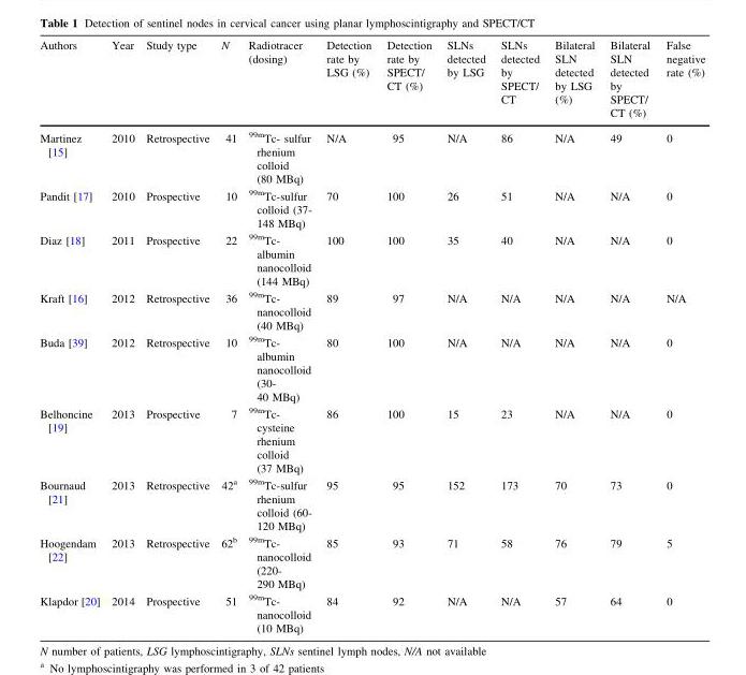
<table><thead><tr><td>Authors</td><td>Year</td><td>Study type</td><td>N</td><td>Radiotracer (dosing)</td><td>Detection rate by LSG (%)</td><td>Detection rate by SPECT/ CT (%)</td><td>SLNs detected by LSG</td><td>SLNs detected by SPECT/ CT</td><td>Bilateral SLN detected by LSG (%)</td><td>Bilateral SLN detected by SPECT/ CT (%)</td><td>False negative rate (%)</td></tr></thead><tbody><tr><td>Martinez [15]</td><td>2010</td><td>Retrospective</td><td>41</td><td><sup>99m</sup>Tc- sulfur rhenium colloid (80 MBq)</td><td>N/A</td><td>95</td><td>N/A</td><td>86</td><td>N/A</td><td>49</td><td>0</td></tr><tr><td>Pandit [17]</td><td>2010</td><td>Prospective</td><td>10</td><td><sup>99m</sup>Tc-sulfur colloid (37- 148 MBq)</td><td>70</td><td>100</td><td>26</td><td>51</td><td>N/A</td><td>N/A</td><td>0</td></tr><tr><td>Diaz [18]</td><td>2011</td><td>Prospective</td><td>22</td><td><sup>99m</sup>Tc- albumin nanocolloid (144 MBq)</td><td>100</td><td>100</td><td>35</td><td>40</td><td>N/A</td><td>N/A</td><td>0</td></tr><tr><td>Kraft [16]</td><td>2012</td><td>Retrospective</td><td>36</td><td><sup>99m</sup>Tc- nanocolloid (40 MBq)</td><td>89</td><td>97</td><td>N/A</td><td>N/A</td><td>N/A</td><td>N/A</td><td>N/A</td></tr><tr><td>Buda [39]</td><td>2012</td><td>Retrospective</td><td>10</td><td><sup>99m</sup>Tc- albumin nanocolloid (30- 40 MBq)</td><td>80</td><td>100</td><td>N/A</td><td>N/A</td><td>N/A</td><td>N/A</td><td>0</td></tr><tr><td>Belhoncine [19]</td><td>2013</td><td>Prospective</td><td>7</td><td><sup>99m</sup>Tc- cysteine rhenium colloid (37 MBq)</td><td>86</td><td>100</td><td>15</td><td>23</td><td>N/A</td><td>N/A</td><td>0</td></tr><tr><td>Bournaud [21]</td><td>2013</td><td>Retrospective</td><td>42<sup>a</sup></td><td><sup>99m</sup>Tc-sulfur rhenium colloid (60- 120 MBq)</td><td>95</td><td>95</td><td>152</td><td>173</td><td>70</td><td>73</td><td>0</td></tr><tr><td>Hoogendam [22]</td><td>2013</td><td>Retrospective</td><td>62<sup>b</sup></td><td><sup>99m</sup>Tc- nanocolloid (220- 290 MBq)</td><td>85</td><td>93</td><td>71</td><td>58</td><td>76</td><td>79</td><td>5</td></tr><tr><td>Klapdor [20]</td><td>2014</td><td>Prospective</td><td>51</td><td><sup>99m</sup>Tc- nanocolloid (10 MBq)</td><td>84</td><td>92</td><td>N/A</td><td>N/A</td><td>57</td><td>64</td><td>0</td></tr></tbody></table>